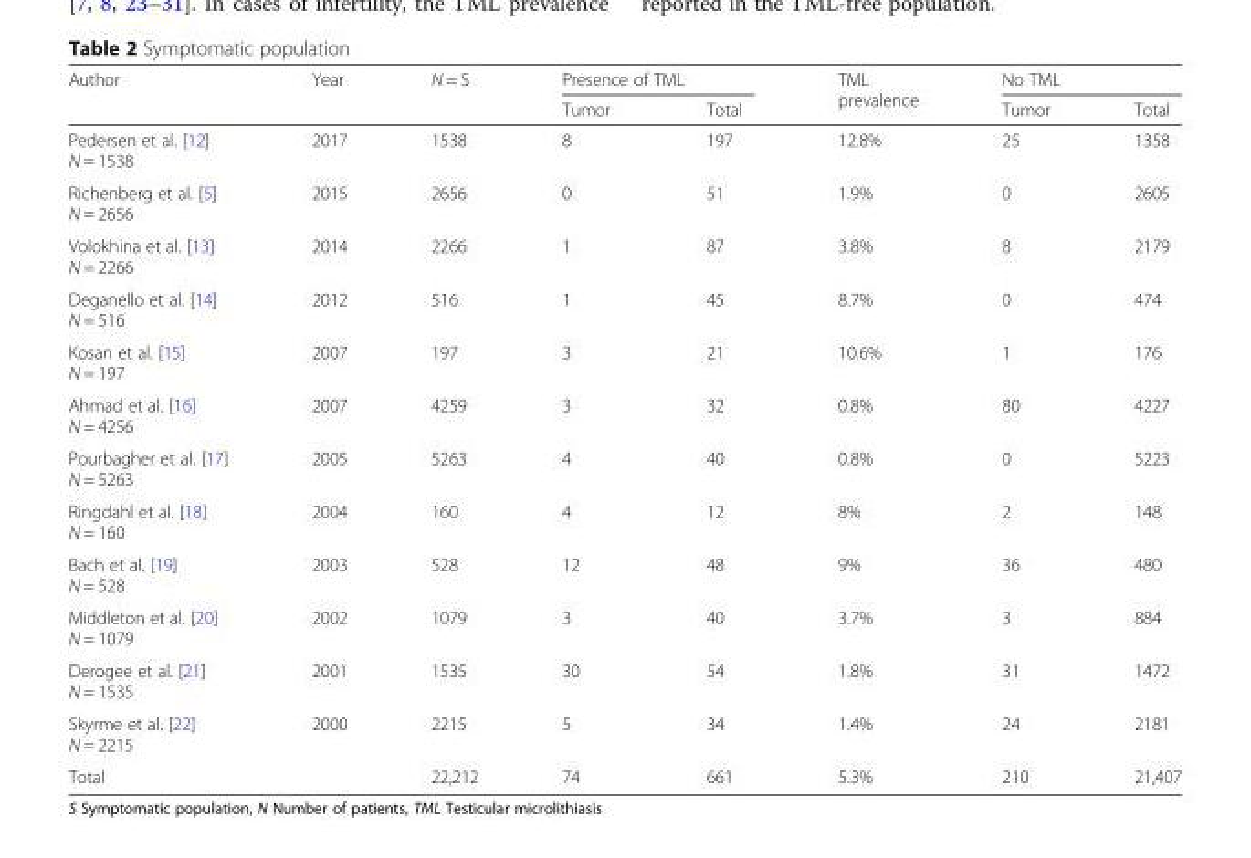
<table><thead><tr><td rowspan="2">Author</td><td rowspan="2">Year</td><td rowspan="2">N = S</td><td colspan="2">Presence of TML</td><td rowspan="2">TML prevalence</td><td colspan="2">No TML</td></tr><tr><td>Tumor</td><td>Total</td><td>Tumor</td><td>Total</td></tr></thead><tbody><tr><td>Pedersen et al. [12] N = 1538</td><td>2017</td><td>1538</td><td>8</td><td>197</td><td>12.8%</td><td>25</td><td>1358</td></tr><tr><td>Richenberg et al. [5] N = 2656</td><td>2015</td><td>2656</td><td>0</td><td>51</td><td>1.9%</td><td>0</td><td>2605</td></tr><tr><td>Volokhina et al. [13] N = 2266</td><td>2014</td><td>2266</td><td>1</td><td>87</td><td>3.8%</td><td>8</td><td>2179</td></tr><tr><td>Deganello et al. [14] N = 516</td><td>2012</td><td>516</td><td>1</td><td>45</td><td>8.7%</td><td>0</td><td>474</td></tr><tr><td>Kosan et al. [15] N = 197</td><td>2007</td><td>197</td><td>3</td><td>21</td><td>10.6%</td><td>1</td><td>176</td></tr><tr><td>Ahmad et al. [16] N = 4256</td><td>2007</td><td>4259</td><td>3</td><td>32</td><td>0.8%</td><td>80</td><td>4227</td></tr><tr><td>Pourbagher et al. [17] N = 5263</td><td>2005</td><td>5263</td><td>4</td><td>40</td><td>0.8%</td><td>0</td><td>5223</td></tr><tr><td>Ringdahl et al. [18] N = 160</td><td>2004</td><td>160</td><td>4</td><td>12</td><td>8%</td><td>2</td><td>148</td></tr><tr><td>Bach et al. [19] N = 528</td><td>2003</td><td>528</td><td>12</td><td>48</td><td>9%</td><td>36</td><td>480</td></tr><tr><td>Middleton et al. [20] N = 1079</td><td>2002</td><td>1079</td><td>3</td><td>40</td><td>3.7%</td><td>3</td><td>884</td></tr><tr><td>Derogee et al. [21] N = 1535</td><td>2001</td><td>1535</td><td>30</td><td>54</td><td>1.8%</td><td>31</td><td>1472</td></tr><tr><td>Skyrme et al. [22] N = 2215</td><td>2000</td><td>2215</td><td>5</td><td>34</td><td>1.4%</td><td>24</td><td>2181</td></tr><tr><td>Total</td><td></td><td>22,212</td><td>74</td><td>661</td><td>5.3%</td><td>210</td><td>21,407</td></tr></tbody></table>